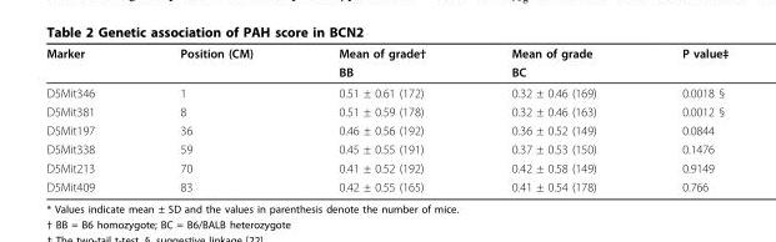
<table><thead><tr><td rowspan="2">Marker</td><td rowspan="2">Position (CM)</td><td rowspan="2">Mean of grade† BB</td><td rowspan="2">Mean of grade BC</td><td rowspan="2">P value‡</td></tr><tr></tr></thead><tbody><tr><td>D5Mit346</td><td>1</td><td>0.51 ± 0.61 (172)</td><td>0.32 ± 0.46 (169)</td><td>0.0018 §</td></tr><tr><td>D5Mit381</td><td>8</td><td>0.51 ± 0.59 (178)</td><td>0.32 ± 0.46 (163)</td><td>0.0012 §</td></tr><tr><td>D5Mit197</td><td>36</td><td>0.46 ± 0.56 (192)</td><td>0.36 ± 0.52 (149)</td><td>0.0844</td></tr><tr><td>D5Mit338</td><td>59</td><td>0.45 ± 0.55 (191)</td><td>0.37 ± 0.53 (150)</td><td>0.1476</td></tr><tr><td>D5Mit213</td><td>70</td><td>0.41 ± 0.52 (192)</td><td>0.42 ± 0.58 (149)</td><td>0.9149</td></tr><tr><td>D5Mit409</td><td>83</td><td>0.42 ± 0.55 (165)</td><td>0.41 ± 0.54 (178)</td><td>0.766</td></tr></tbody></table>